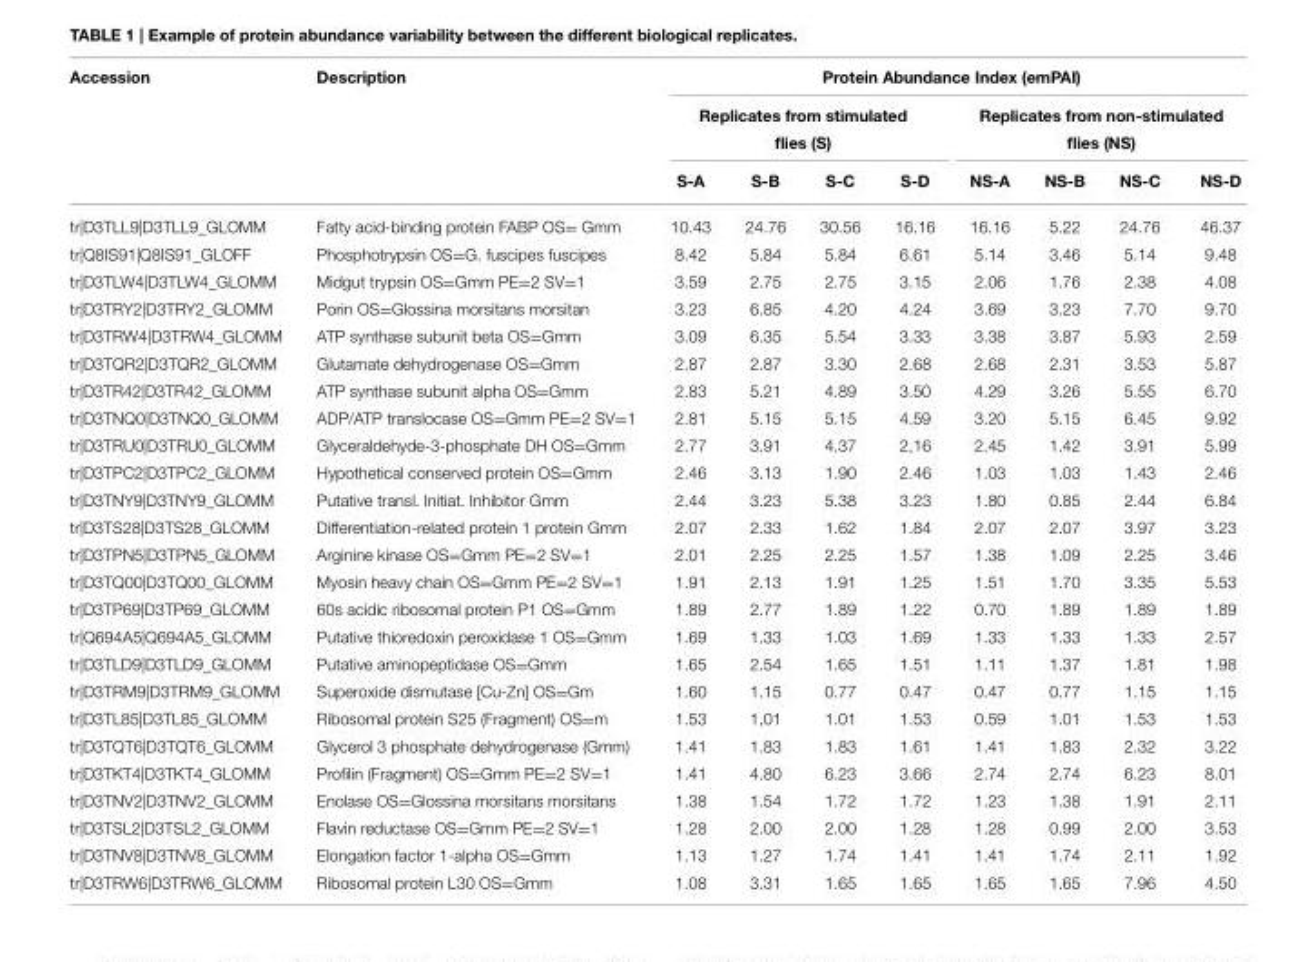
<table><thead><tr><td rowspan="3">Accession</td><td rowspan="3">Description</td><td colspan="8">Protein Abundance Index (emPAI)</td></tr><tr><td colspan="4">Replicates from stimulated flies (S)</td><td colspan="4">Replicates from non-stimulated flies (NS)</td></tr><tr><td>S-A</td><td>S-B</td><td>S-C</td><td>S-D</td><td>NS-A</td><td>NS-B</td><td>NS-C</td><td>NS-D</td></tr></thead><tbody><tr><td>tr|D3TLL9|D3TLL9_GLOMM</td><td>Fatty acid-binding protein FABP OS= Gmm</td><td>10.43</td><td>24.76</td><td>30.56</td><td>16.16</td><td>16.16</td><td>5.22</td><td>24.76</td><td>46.37</td></tr><tr><td>tr|Q8IS91|Q8IS91_GLOFF</td><td>Phosphotrypsin OS=G. fuscipes fuscipes</td><td>8.42</td><td>5.84</td><td>5.84</td><td>6.61</td><td>5.14</td><td>3.46</td><td>5.14</td><td>9.48</td></tr><tr><td>tr|D3TLW4|D3TLW4_GLOMM</td><td>Midgut trypsin OS=Gmm PE=2 SV=1</td><td>3.59</td><td>2.75</td><td>2.75</td><td>3.15</td><td>2.06</td><td>1.76</td><td>2.38</td><td>4.08</td></tr><tr><td>tr|D3TRY2|D3TRY2_GLOMM</td><td>Porin OS=Glossina morsitans morsitan</td><td>3.23</td><td>6.85</td><td>4.20</td><td>4.24</td><td>3.69</td><td>3.23</td><td>7.70</td><td>9.70</td></tr><tr><td>tr|D3TRW4|D3TRW4_GLOMM</td><td>ATP synthase subunit beta OS=Gmm</td><td>3.09</td><td>6.35</td><td>5.54</td><td>3.33</td><td>3.38</td><td>3.87</td><td>5.93</td><td>2.59</td></tr><tr><td>tr|D3TQR2|D3TQR2_GLOMM</td><td>Glutamate dehydrogenase OS=Gmm</td><td>2.87</td><td>2.87</td><td>3.30</td><td>2.68</td><td>2.68</td><td>2.31</td><td>3.53</td><td>5.87</td></tr><tr><td>tr|D3TR42|D3TR42_GLOMM</td><td>ATP synthase subunit alpha OS=Gmm</td><td>2.83</td><td>5.21</td><td>4.89</td><td>3.50</td><td>4.29</td><td>3.26</td><td>5.55</td><td>6.70</td></tr><tr><td>tr|D3TNQ0|D3TNQ0_GLOMM</td><td>ADP/ATP translocase OS=Gmm PE=2 SV=1</td><td>2.81</td><td>5.15</td><td>5.15</td><td>4.59</td><td>3.20</td><td>5.15</td><td>6.45</td><td>9.92</td></tr><tr><td>tr|D3TRU0|D3TRU0_GLOMM</td><td>Glyceraldehyde-3-phosphate DH OS=Gmm</td><td>2.77</td><td>3.91</td><td>4.37</td><td>2,16</td><td>2.45</td><td>1.42</td><td>3.91</td><td>5.99</td></tr><tr><td>tr|D3TPC2|D3TPC2_GLOMM</td><td>Hypothetical conserved protein OS=Gmm</td><td>2.46</td><td>3.13</td><td>1.90</td><td>2.46</td><td>1.03</td><td>1.03</td><td>1.43</td><td>2.46</td></tr><tr><td>tr|D3TNY9|D3TNY9_GLOMM</td><td>Putative transl. Initiat. Inhibitor Gmm</td><td>2.44</td><td>3.23</td><td>5.38</td><td>3.23</td><td>1.80</td><td>0.85</td><td>2.44</td><td>6.84</td></tr><tr><td>tr|D3TS28|D3TS28_GLOMM</td><td>Differentiation-related protein 1 protein Gmm</td><td>2.07</td><td>2.33</td><td>1.62</td><td>1.84</td><td>2.07</td><td>2.07</td><td>3.97</td><td>3.23</td></tr><tr><td>tr|D3TPN5|D3TPN5_GLOMM</td><td>Arginine kinase OS=Gmm PE=2 SV=1</td><td>2.01</td><td>2.25</td><td>2.25</td><td>1.57</td><td>1.38</td><td>1.09</td><td>2.25</td><td>3.46</td></tr><tr><td>tr|D3TQ00|D3TQ00_GLOMM</td><td>Myosin heavy chain OS=Gmm PE=2 SV=1</td><td>1.91</td><td>2.13</td><td>1.91</td><td>1.25</td><td>1.51</td><td>1.70</td><td>3.35</td><td>5.53</td></tr><tr><td>tr|D3TP69|D3TP69_GLOMM</td><td>60s acidic ribosomal protein P1 OS=Gmm</td><td>1.89</td><td>2.77</td><td>1.89</td><td>1.22</td><td>0.70</td><td>1.89</td><td>1.89</td><td>1.89</td></tr><tr><td>tr|Q694A5|Q694A5_GLOMM</td><td>Putative thioredoxin peroxidase 1 OS=Gmm</td><td>1.69</td><td>1.33</td><td>1.03</td><td>1.69</td><td>1.33</td><td>1.33</td><td>1.33</td><td>2.57</td></tr><tr><td>tr|D3TLD9|D3TLD9_GLOMM</td><td>Putative aminopeptidase OS=Gmm</td><td>1.65</td><td>2.54</td><td>1.65</td><td>1.51</td><td>1.11</td><td>1.37</td><td>1.81</td><td>1.98</td></tr><tr><td>tr|D3TRM9|D3TRM9_GLOMM</td><td>Superoxide dismutase [Cu-Zn] OS=Gm</td><td>1.60</td><td>1.15</td><td>0.77</td><td>0.47</td><td>0.47</td><td>0.77</td><td>1.15</td><td>1.15</td></tr><tr><td>tr|D3TL85|D3TL85_GLOMM</td><td>Ribosomal protein S25 (Fragment) OS=m</td><td>1.53</td><td>1,01</td><td>1.01</td><td>1.53</td><td>0.59</td><td>1.01</td><td>1.53</td><td>1.53</td></tr><tr><td>tr|D3TQT6|D3TQT6_GLOMM</td><td>Glycerol 3 phosphate dehydrogenase (Gmm)</td><td>1.41</td><td>1.83</td><td>1.83</td><td>1.61</td><td>1.41</td><td>1.83</td><td>2.32</td><td>3.22</td></tr><tr><td>tr|D3TKT4|D3TKT4_GLOMM</td><td>Profilin (Fragment) OS=Gmm PE=2 SV=1</td><td>1.41</td><td>4.80</td><td>6.23</td><td>3.66</td><td>2.74</td><td>2.74</td><td>6.23</td><td>8.01</td></tr><tr><td>tr|D3TNV2|D3TNV2_GLOMM</td><td>Enolase OS=Glossina morsitans morsitans</td><td>1.38</td><td>1.54</td><td>1.72</td><td>1.72</td><td>1.23</td><td>1.38</td><td>1.91</td><td>2.11</td></tr><tr><td>tr|D3TSL2|D3TSL2_GLOMM</td><td>Flavin reductase OS=Gmm PE=2 SV=1</td><td>1.28</td><td>2.00</td><td>2.00</td><td>1.28</td><td>1.28</td><td>0.99</td><td>2.00</td><td>3.53</td></tr><tr><td>tr|D3TNV8|D3TNV8_GLOMM</td><td>Elongation factor 1-alpha OS=Gmm</td><td>1.13</td><td>1.27</td><td>1.74</td><td>1.41</td><td>1.41</td><td>1.74</td><td>2.11</td><td>1.92</td></tr><tr><td>tr|D3TRW6|D3TRW6_GLOMM</td><td>Ribosomal protein L30 OS=Gmm</td><td>1.08</td><td>3.31</td><td>1.65</td><td>1.65</td><td>1.65</td><td>1.65</td><td>7.96</td><td>4.50</td></tr></tbody></table>